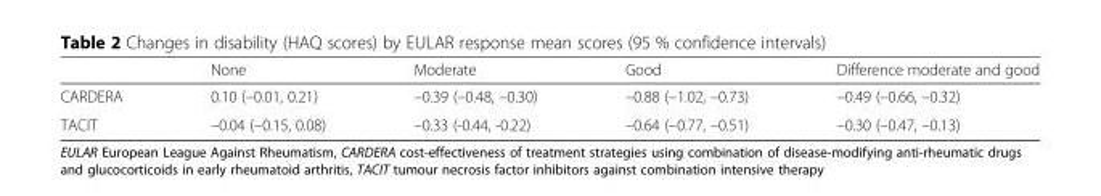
<table><thead><tr><td></td><td>None</td><td>Moderate</td><td>Good</td><td>Difference moderate and good</td></tr></thead><tbody><tr><td>CARDERA</td><td>0.10 (–0.01, 0.21)</td><td>–0.39 (–0.48, –0.30)</td><td>–0.88 (–1.02, –0.73)</td><td>–0.49 (–0.66, –0.32)</td></tr><tr><td>TACIT</td><td>–0.04 (–0.15, 0.08)</td><td>–0.33 (-0.44, -0.22)</td><td>–0.64 (–0.77, –0.51)</td><td>–0.30 (–0.47, –0.13)</td></tr></tbody></table>